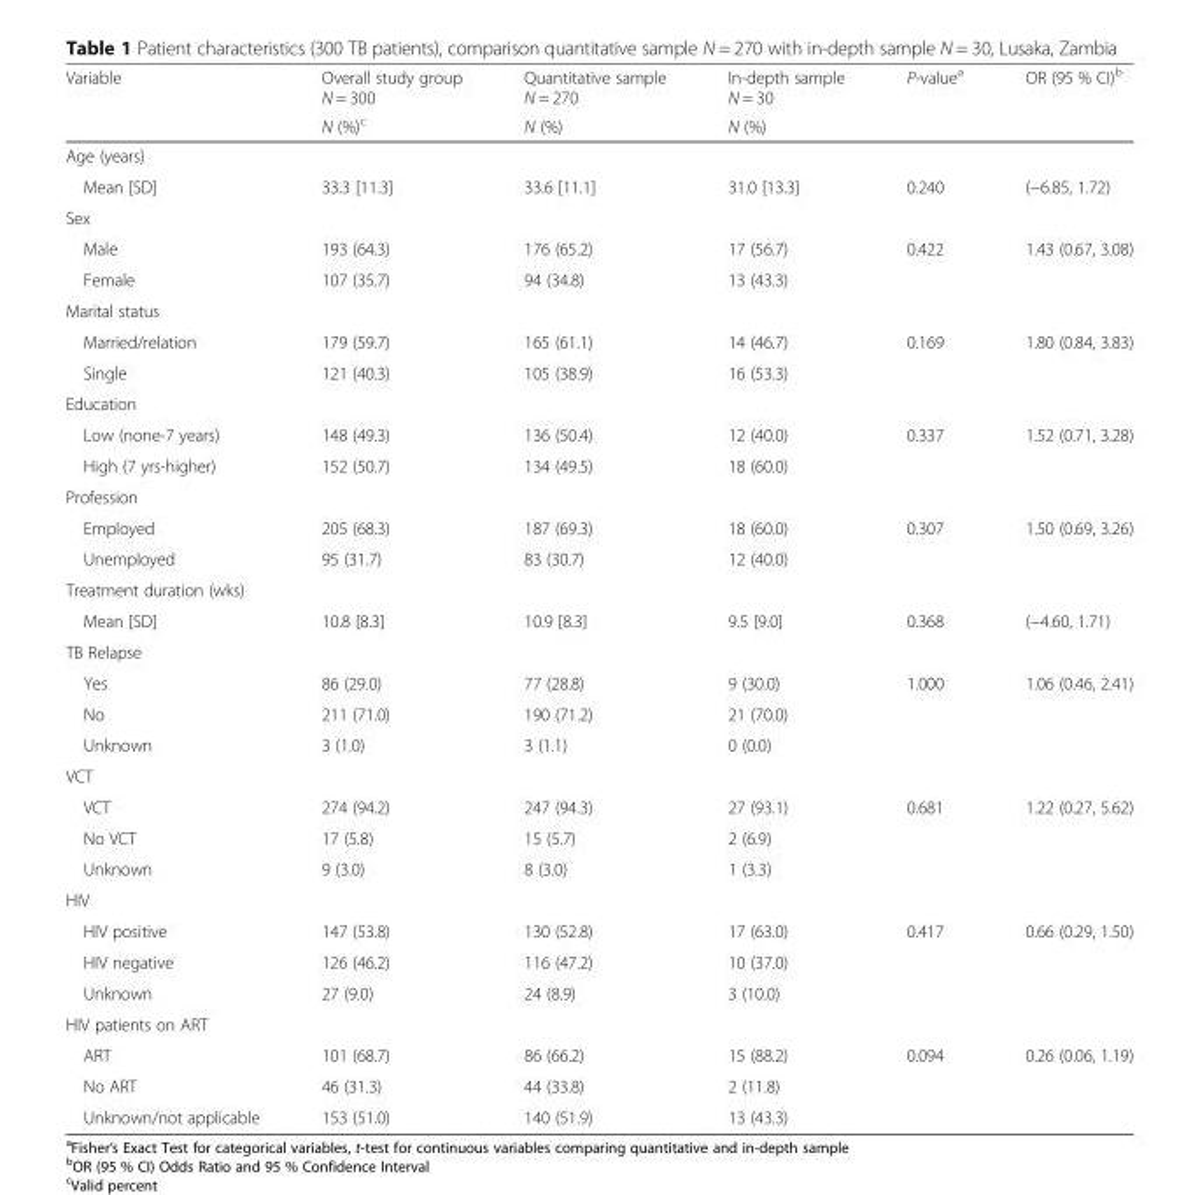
<table><thead><tr><td rowspan="2">Variable</td><td rowspan="2">Overall study group N = 300 N (%)<sup>c</sup></td><td rowspan="2">Quantitative sample N = 270 N (%)</td><td rowspan="2">In-depth sample N = 30 N (%)</td><td rowspan="2">P-value<sup>a</sup></td><td rowspan="2">OR (95 % CI)<sup>b</sup></td></tr><tr></tr></thead><tbody><tr><td colspan="6">Age (years)</td></tr><tr><td>Mean [SD]</td><td>33.3 [11.3]</td><td>33.6 [11.1]</td><td>31.0 [13.3]</td><td>0.240</td><td>(−6.85, 1.72)</td></tr><tr><td colspan="6">Sex</td></tr><tr><td>Male</td><td>193 (64.3)</td><td>176 (65.2)</td><td>17 (56.7)</td><td>0.422</td><td>1.43 (0.67, 3.08)</td></tr><tr><td>Female</td><td>107 (35.7)</td><td>94 (34.8)</td><td>13 (43.3)</td><td></td><td></td></tr><tr><td colspan="6">Marital status</td></tr><tr><td>Married/relation</td><td>179 (59.7)</td><td>165 (61.1)</td><td>14 (46.7)</td><td>0.169</td><td>1.80 (0.84, 3.83)</td></tr><tr><td>Single</td><td>121 (40.3)</td><td>105 (38.9)</td><td>16 (53.3)</td><td></td><td></td></tr><tr><td colspan="6">Education</td></tr><tr><td>Low (none-7 years)</td><td>148 (49.3)</td><td>136 (50.4)</td><td>12 (40.0)</td><td>0.337</td><td>1.52 (0.71, 3.28)</td></tr><tr><td>High (7 yrs-higher)</td><td>152 (50.7)</td><td>134 (49.5)</td><td>18 (60.0)</td><td></td><td></td></tr><tr><td colspan="6">Profession</td></tr><tr><td>Employed</td><td>205 (68.3)</td><td>187 (69.3)</td><td>18 (60.0)</td><td>0.307</td><td>1.50 (0.69, 3.26)</td></tr><tr><td>Unemployed</td><td>95 (31.7)</td><td>83 (30.7)</td><td>12 (40.0)</td><td></td><td></td></tr><tr><td colspan="6">Treatment duration (wks)</td></tr><tr><td>Mean [SD]</td><td>10.8 [8.3]</td><td>10.9 [8.3]</td><td>9.5 [9.0]</td><td>0.368</td><td>(−4.60, 1.71)</td></tr><tr><td colspan="6">TB Relapse</td></tr><tr><td>Yes</td><td>86 (29.0)</td><td>77 (28.8)</td><td>9 (30.0)</td><td>1.000</td><td>1.06 (0.46, 2.41)</td></tr><tr><td>No</td><td>211 (71.0)</td><td>190 (71.2)</td><td>21 (70.0)</td><td></td><td></td></tr><tr><td>Unknown</td><td>3 (1.0)</td><td>3 (1.1)</td><td>0 (0.0)</td><td></td><td></td></tr><tr><td colspan="6">VCT</td></tr><tr><td>VCT</td><td>274 (94.2)</td><td>247 (94.3)</td><td>27 (93.1)</td><td>0.681</td><td>1.22 (0.27, 5.62)</td></tr><tr><td>No VCT</td><td>17 (5.8)</td><td>15 (5.7)</td><td>2 (6.9)</td><td></td><td></td></tr><tr><td>Unknown</td><td>9 (3.0)</td><td>8 (3.0)</td><td>1 (3.3)</td><td></td><td></td></tr><tr><td colspan="6">HIV</td></tr><tr><td>HIV positive</td><td>147 (53.8)</td><td>130 (52.8)</td><td>17 (63.0)</td><td>0.417</td><td>0.66 (0.29, 1.50)</td></tr><tr><td>HIV negative</td><td>126 (46.2)</td><td>116 (47.2)</td><td>10 (37.0)</td><td></td><td></td></tr><tr><td>Unknown</td><td>27 (9.0)</td><td>24 (8.9)</td><td>3 (10.0)</td><td></td><td></td></tr><tr><td colspan="6">HIV patients on ART</td></tr><tr><td>ART</td><td>101 (68.7)</td><td>86 (66.2)</td><td>15 (88.2)</td><td>0.094</td><td>0.26 (0.06, 1.19)</td></tr><tr><td>No ART</td><td>46 (31.3)</td><td>44 (33.8)</td><td>2 (11.8)</td><td></td><td></td></tr><tr><td>Unknown/not applicable</td><td>153 (51.0)</td><td>140 (51.9)</td><td>13 (43.3)</td><td></td><td></td></tr></tbody></table>